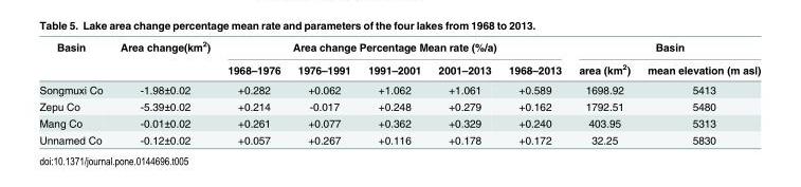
<table><thead><tr><td rowspan="2">Basin</td><td rowspan="2">Area change(km<sup>2</sup>)</td><td colspan="5">Area change Percentage Mean rate (%/a)</td><td colspan="2">Basin</td></tr><tr><td>1968–1976</td><td>1976–1991</td><td>1991–2001</td><td>2001–2013</td><td>1968–2013</td><td>area (km<sup>2</sup>)</td><td>mean elevation (m asl)</td></tr></thead><tbody><tr><td>Songmuxi Co</td><td>-1.98±0.02</td><td>+0.282</td><td>+0.062</td><td>+1.062</td><td>+1.061</td><td>+0.589</td><td>1698.92</td><td>5413</td></tr><tr><td>Zepu Co</td><td>-5.39±0.02</td><td>+0.214</td><td>-0.017</td><td>+0.248</td><td>+0.279</td><td>+0.162</td><td>1792.51</td><td>5480</td></tr><tr><td>Mang Co</td><td>-0.01±0.02</td><td>+0.261</td><td>+0.077</td><td>+0.362</td><td>+0.329</td><td>+0.240</td><td>403.95</td><td>5313</td></tr><tr><td>Unnamed Co</td><td>-0.12±0.02</td><td>+0.057</td><td>+0.267</td><td>+0.116</td><td>+0.178</td><td>+0.172</td><td>32.25</td><td>5830</td></tr></tbody></table>